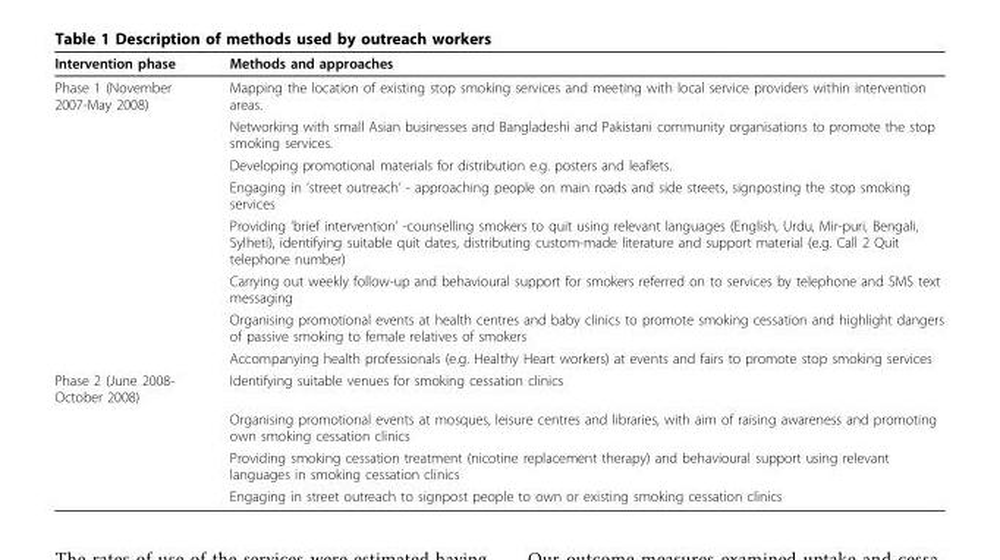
<table><thead><tr><td>Intervention phase</td><td>Methods and approaches</td></tr></thead><tbody><tr><td rowspan="8">Phase 1 (November 2007-May 2008)</td><td>Mapping the location of existing stop smoking services and meeting with local service providers within intervention areas.</td></tr><tr><td>Networking with small Asian businesses and Bangladeshi and Pakistani community organisations to promote the stop smoking services.</td></tr><tr><td>Developing promotional materials for distribution e.g. posters and leaflets.</td></tr><tr><td>Engaging in ‘street outreach’ - approaching people on main roads and side streets, signposting the stop smoking services</td></tr><tr><td>Providing ‘brief intervention’ -counselling smokers to quit using relevant languages (English, Urdu, Mir-puri, Bengali, Sylheti), identifying suitable quit dates, distributing custom-made literature and support material (e.g. Call 2 Quit telephone number)</td></tr><tr><td>Carrying out weekly follow-up and behavioural support for smokers referred on to services by telephone and SMS text messaging</td></tr><tr><td>Organising promotional events at health centres and baby clinics to promote smoking cessation and highlight dangers of passive smoking to female relatives of smokers</td></tr><tr><td>Accompanying health professionals (e.g. Healthy Heart workers) at events and fairs to promote stop smoking services</td></tr><tr><td rowspan="4">Phase 2 (June 2008- October 2008)</td><td>Identifying suitable venues for smoking cessation clinics</td></tr><tr><td>Organising promotional events at mosques, leisure centres and libraries, with aim of raising awareness and promoting own smoking cessation clinics</td></tr><tr><td>Providing smoking cessation treatment (nicotine replacement therapy) and behavioural support using relevant languages in smoking cessation clinics</td></tr><tr><td>Engaging in street outreach to signpost people to own or existing smoking cessation clinics</td></tr></tbody></table>